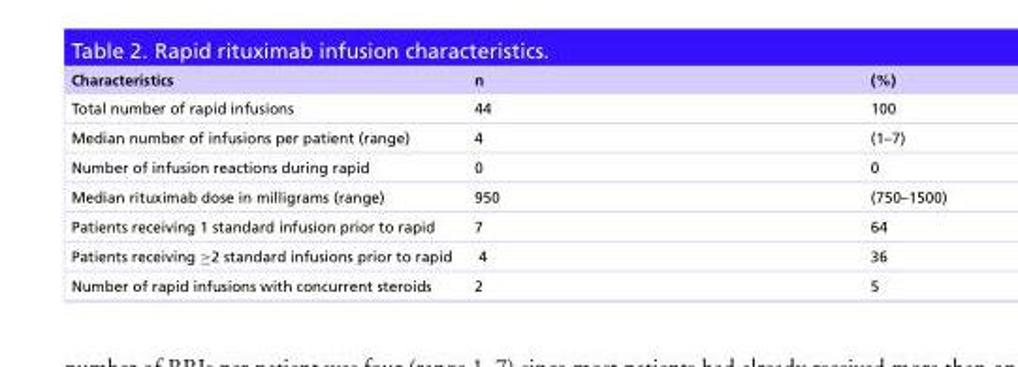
<table><thead><tr><td>Characteristics</td><td>n</td><td>(%)</td></tr></thead><tbody><tr><td>Total number of rapid infusions</td><td>44</td><td>100</td></tr><tr><td>Median number of infusions per patient (range)</td><td>4</td><td>(1–7)</td></tr><tr><td>Number of infusion reactions during rapid</td><td>0</td><td>0</td></tr><tr><td>Median rituximab dose in milligrams (range)</td><td>950</td><td>(750–1500)</td></tr><tr><td>Patients receiving 1 standard infusion prior to rapid</td><td>7</td><td>64</td></tr><tr><td>Patients receiving ≥2 standard infusions prior to rapid</td><td>4</td><td>36</td></tr><tr><td>Number of rapid infusions with concurrent steroids</td><td>2</td><td>5</td></tr></tbody></table>